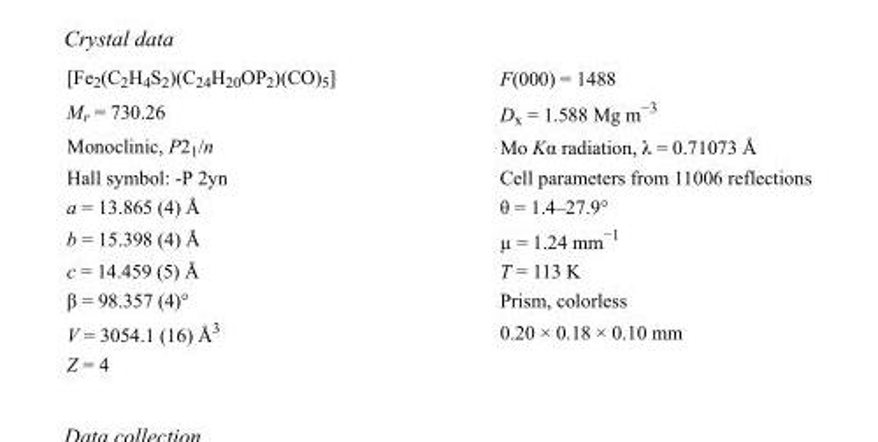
<table><tbody><tr><td>[Fe<sub>2</sub>(C<sub>2</sub>H<sub>4</sub>S<sub>2</sub>)(C<sub>24</sub>H<sub>20</sub>OP<sub>2</sub>)(CO)<sub>5</sub>]</td><td>F(000) = 1488</td></tr><tr><td>M<sub>r</sub> = 730.26</td><td>D<sub>x</sub> = 1.588 Mg m<sup>−3</sup></td></tr><tr><td>Monoclinic, P2<sub>1</sub>/n</td><td>Mo Kα radiation, λ = 0.71073 Å</td></tr><tr><td>Hall symbol: -P 2yn</td><td>Cell parameters from 11006 reflections</td></tr><tr><td>a = 13.865 (4) Å</td><td>θ = 1.4–27.9°</td></tr><tr><td>b = 15.398 (4) Å</td><td>µ = 1.24 mm<sup>−1</sup></td></tr><tr><td>c = 14.459 (5) Å</td><td>T = 113 K</td></tr><tr><td>β = 98.357 (4)°</td><td>Prism, colorless</td></tr><tr><td>V = 3054.1 (16) Å<sup>3</sup></td><td>0.20 × 0.18 × 0.10 mm</td></tr><tr><td>Z = 4</td><td></td></tr></tbody></table>